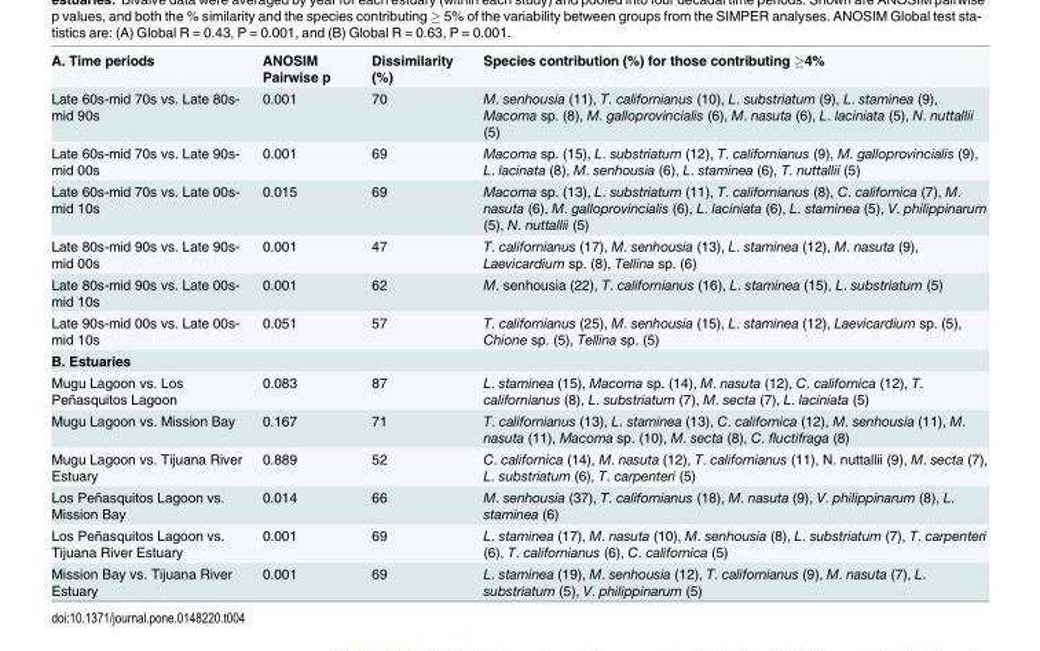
<table><tbody><tr><td>A. Time periods</td><td>ANOSIM Pairwise p</td><td>Dissimilarity (%)</td><td>Species contribution (%) for those contributing ≥4%</td></tr><tr><td>Late 60s-mid 70s vs. Late 80s- mid 90s</td><td>0.001</td><td>70</td><td>M. senhousia (11), T. californianus (10), L. substriatum (9), L. staminea (9), Macoma sp. (8), M. galloprovincialis (6), M. nasuta (6), L. laciniata (5), N. nuttallii (5)</td></tr><tr><td>Late 60s-mid 70s vs. Late 90s- mid 00s</td><td>0.001</td><td>69</td><td>Macoma sp. (15), L. substriatum (12), T. californianus (9), M. galloprovincialis (9), L. lacinata (8), M. senhousia (6), L. staminea (6), T. nuttallii (5)</td></tr><tr><td>Late 60s-mid 70s vs. Late 00s- mid 10s</td><td>0.015</td><td>69</td><td>Macoma sp. (13), L. substriatum (11), T. californianus (8), C. californica (7), M. nasuta (6), M. galloprovincialis (6), L. laciniata (6), L. staminea (5), V. philippinarum (5), N. nuttallii (5)</td></tr><tr><td>Late 80s-mid 90s vs. Late 90s- mid 00s</td><td>0.001</td><td>47</td><td>T. californianus (17), M. senhousia (13), L. staminea (12), M. nasuta (9), Laevicardium sp. (8), Tellina sp. (6)</td></tr><tr><td>Late 80s-mid 90s vs. Late 00s- mid 10s</td><td>0.001</td><td>62</td><td>M. senhousia (22), T. californianus (16), L. staminea (15), L. substriatum (5)</td></tr><tr><td>Late 90s-mid 00s vs. Late 00s- mid 10s</td><td>0.051</td><td>57</td><td>T. californianus (25), M. senhousia (15), L. staminea (12), Laevicardium sp. (5), Chione sp. (5), Tellina sp. (5)</td></tr><tr><td colspan="4">B. Estuaries</td></tr><tr><td>Mugu Lagoon vs. Los Peñasquitos Lagoon</td><td>0.083</td><td>87</td><td>L. staminea (15), Macoma sp. (14), M. nasuta (12), C. californica (12), T. californianus (8), L. substriatum (7), M. secta (7), L. laciniata (5)</td></tr><tr><td>Mugu Lagoon vs. Mission Bay</td><td>0.167</td><td>71</td><td>T. californianus (13), L. staminea (13), C. californica (12), M. senhousia (11), M. nasuta (11), Macoma sp. (10), M. secta (8), C. fluctifraga (8)</td></tr><tr><td>Mugu Lagoon vs. Tijuana River Estuary</td><td>0.889</td><td>52</td><td>C. californica (14), M. nasuta (12), T. californianus (11), N. nuttallii (9), M. secta (7), L. substriatum (6), T. carpenteri (5)</td></tr><tr><td>Los Peñasquitos Lagoon vs. Mission Bay</td><td>0.014</td><td>66</td><td>M. senhousia (37), T. californianus (18), M. nasuta (9), V. philippinarum (8), L. staminea (6)</td></tr><tr><td>Los Peñasquitos Lagoon vs. Tijuana River Estuary</td><td>0.001</td><td>69</td><td>L. staminea (17), M. nasuta (10), M. senhousia (8), L. substriatum (7), T. carpenteri (6), T. californianus (6), C. californica (5)</td></tr><tr><td>Mission Bay vs. Tijuana River Estuary</td><td>0.001</td><td>69</td><td>L. staminea (19), M. senhousia (12), T. californianus (9), M. nasuta (7), L. substriatum (5), V. philippinarum (5)</td></tr></tbody></table>